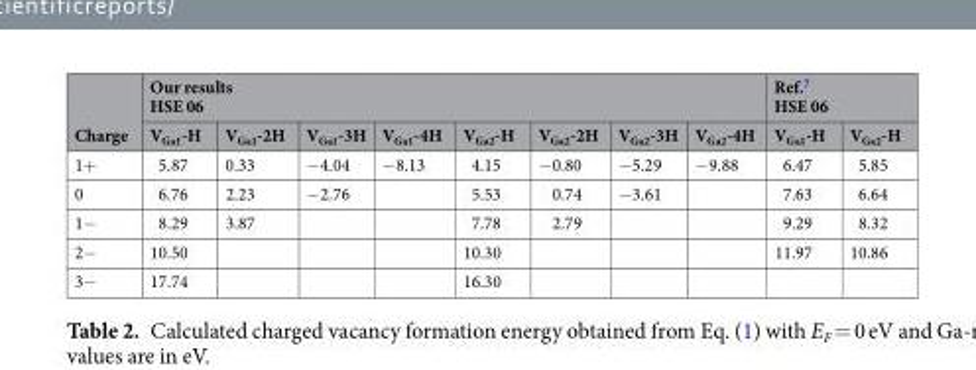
<table><thead><tr><td rowspan="2">Charge</td><td colspan="8">Our results HSE 06</td><td colspan="2">Ref.<sup>7</sup> HSE 06</td></tr><tr><td>V<sub>Ga1</sub>-H</td><td>V<sub>Ga1</sub>-2H</td><td>V<sub>Ga1</sub>-3H</td><td>V<sub>Ga1</sub>-4H</td><td>V<sub>Ga2</sub>-H</td><td>V<sub>Ga2</sub>-2H</td><td>V<sub>Ga2</sub>-3H</td><td>V<sub>Ga2</sub>-4H</td><td>V<sub>Ga1</sub>-H</td><td>V<sub>Ga2</sub>-H</td></tr></thead><tbody><tr><td>1+</td><td>5.87</td><td>0.33</td><td>−4.04</td><td>−8.13</td><td>4.15</td><td>−0.80</td><td>−5.29</td><td>−9.88</td><td>6.47</td><td>5.85</td></tr><tr><td>0</td><td>6.76</td><td>2.23</td><td>−2.76</td><td></td><td>5.53</td><td>0.74</td><td>−3.61</td><td></td><td>7.63</td><td>6.64</td></tr><tr><td>1−</td><td>8.29</td><td>3.87</td><td></td><td></td><td>7.78</td><td>2.79</td><td></td><td></td><td>9.29</td><td>8.32</td></tr><tr><td>2−</td><td>10.50</td><td></td><td></td><td></td><td>10.30</td><td></td><td></td><td></td><td>11.97</td><td>10.86</td></tr><tr><td>3−</td><td>17.74</td><td></td><td></td><td></td><td>16.30</td><td></td><td></td><td></td><td></td><td></td></tr></tbody></table>